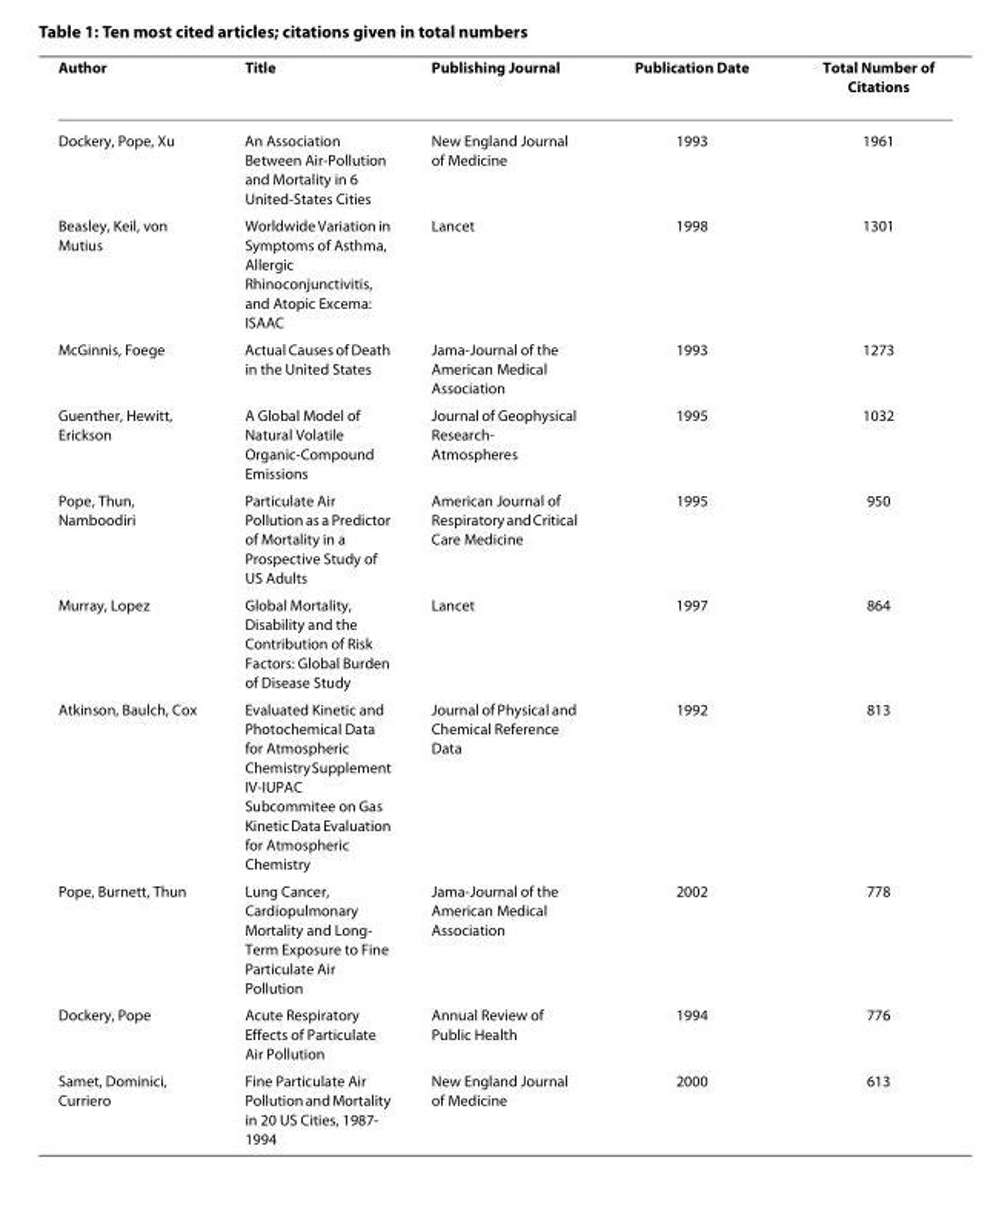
<table><thead><tr><td>Author</td><td>Title</td><td>Publishing Journal</td><td>Publication Date</td><td>Total Number of Citations</td></tr></thead><tbody><tr><td>Dockery, Pope, Xu</td><td>An Association Between Air-Pollution and Mortality in 6 United-States Cities</td><td>New England Journal of Medicine</td><td>1993</td><td>1961</td></tr><tr><td>Beasley, Keil, von Mutius</td><td>Worldwide Variation in Symptoms of Asthma, Allergic Rhinoconjunctivitis, and Atopic Excema: ISAAC</td><td>Lancet</td><td>1998</td><td>1301</td></tr><tr><td>McGinnis, Foege</td><td>Actual Causes of Death in the United States</td><td>Jama-Journal of the American Medical Association</td><td>1993</td><td>1273</td></tr><tr><td>Guenther, Hewitt, Erickson</td><td>A Global Model of Natural Volatile Organic-Compound Emissions</td><td>Journal of Geophysical Research- Atmospheres</td><td>1995</td><td>1032</td></tr><tr><td>Pope, Thun, Namboodiri</td><td>Particulate Air Pollution as a Predictor of Mortality in a Prospective Study of US Adults</td><td>American Journal of Respiratory and Critical Care Medicine</td><td>1995</td><td>950</td></tr><tr><td>Murray, Lopez</td><td>Global Mortality, Disability and the Contribution of Risk Factors: Global Burden of Disease Study</td><td>Lancet</td><td>1997</td><td>864</td></tr><tr><td>Atkinson, Baulch, Cox</td><td>Evaluated Kinetic and Photochemical Data for Atmospheric Chemistry Supplement IV-IUPAC Subcommitee on Gas Kinetic Data Evaluation for Atmospheric Chemistry</td><td>Journal of Physical and Chemical Reference Data</td><td>1992</td><td>813</td></tr><tr><td>Pope, Burnett, Thun</td><td>Lung Cancer, Cardiopulmonary Mortality and Long- Term Exposure to Fine Particulate Air Pollution</td><td>Jama-Journal of the American Medical Association</td><td>2002</td><td>778</td></tr><tr><td>Dockery, Pope</td><td>Acute Respiratory Effects of Particulate Air Pollution</td><td>Annual Review of Public Health</td><td>1994</td><td>776</td></tr><tr><td>Samet, Dominici, Curriero</td><td>Fine Particulate Air Pollution and Mortality in 20 US Cities, 1987- 1994</td><td>New England Journal of Medicine</td><td>2000</td><td>613</td></tr></tbody></table>